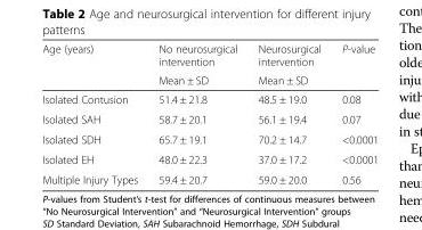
<table><thead><tr><td rowspan="2">Age (years)</td><td rowspan="2">No neurosurgical intervention Mean ± SD</td><td rowspan="2">Neurosurgical intervention Mean ± SD</td><td rowspan="2">P-value</td></tr><tr></tr></thead><tbody><tr><td>Isolated Contusion</td><td>51.4 ± 21.8</td><td>48.5 ± 19.0</td><td>0.08</td></tr><tr><td>Isolated SAH</td><td>58.7 ± 20.1</td><td>56.1 ± 19.4</td><td>0.07</td></tr><tr><td>Isolated SDH</td><td>65.7 ± 19.1</td><td>70.2 ± 14.7</td><td>&lt;0.0001</td></tr><tr><td>Isolated EH</td><td>48.0 ± 22.3</td><td>37.0 ± 17.2</td><td>&lt;0.0001</td></tr><tr><td>Multiple Injury Types</td><td>59.4 ± 20.7</td><td>59.0 ± 20.0</td><td>0.56</td></tr></tbody></table>